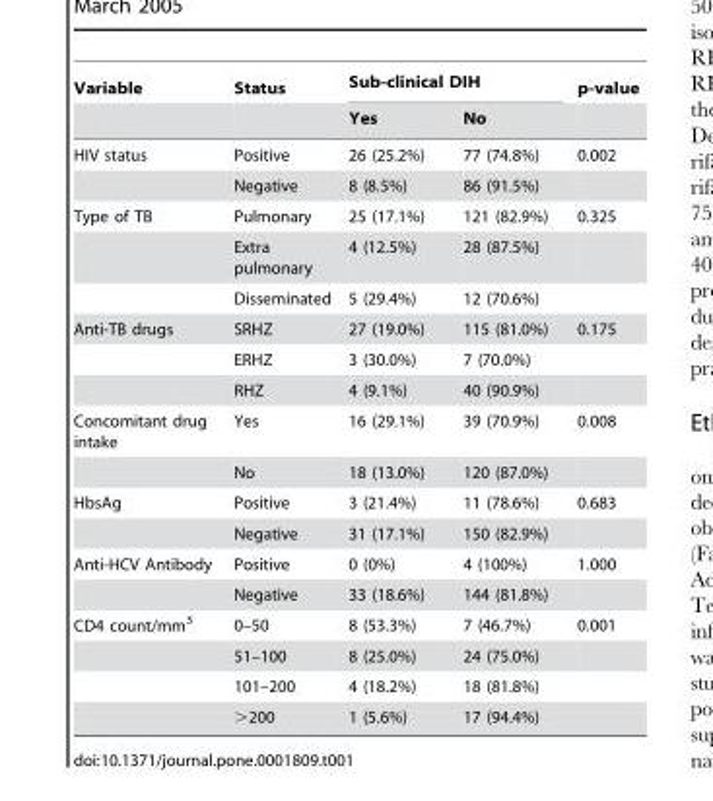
<table><thead><tr><td rowspan="2">Variable</td><td rowspan="2">Status</td><td colspan="2">Sub-clinical DIH</td><td rowspan="2">p-value</td></tr><tr><td>Yes</td><td>No</td></tr></thead><tbody><tr><td rowspan="2">HIV status</td><td>Positive</td><td>26 (25.2%)</td><td>77 (74.8%)</td><td>0.002</td></tr><tr><td>Negative</td><td>8 (8.5%)</td><td>86 (91.5%)</td><td></td></tr><tr><td rowspan="3">Type of TB</td><td>Pulmonary</td><td>25 (17.1%)</td><td>121 (82.9%)</td><td>0.325</td></tr><tr><td>Extra pulmonary</td><td>4 (12.5%)</td><td>28 (87.5%)</td><td></td></tr><tr><td>Disseminated</td><td>5 (29.4%)</td><td>12 (70.6%)</td><td></td></tr><tr><td rowspan="3">Anti-TB drugs</td><td>SRHZ</td><td>27 (19.0%)</td><td>115 (81.0%)</td><td>0.175</td></tr><tr><td>ERHZ</td><td>3 (30.0%)</td><td>7 (70.0%)</td><td></td></tr><tr><td>RHZ</td><td>4 (9.1%)</td><td>40 (90.9%)</td><td></td></tr><tr><td rowspan="2">Concomitant drug intake</td><td>Yes</td><td>16 (29.1%)</td><td>39 (70.9%)</td><td>0.008</td></tr><tr><td>No</td><td>18 (13.0%)</td><td>120 (87.0%)</td><td></td></tr><tr><td rowspan="2">HbsAg</td><td>Positive</td><td>3 (21.4%)</td><td>11 (78.6%)</td><td>0.683</td></tr><tr><td>Negative</td><td>31 (17.1%)</td><td>150 (82.9%)</td><td></td></tr><tr><td rowspan="2">Anti-HCV Antibody</td><td>Positive</td><td>0 (0%)</td><td>4 (100%)</td><td>1.000</td></tr><tr><td>Negative</td><td>33 (18.6%)</td><td>144 (81.8%)</td><td></td></tr><tr><td rowspan="4">CD4 count/mm<sup>3</sup></td><td>0–50</td><td>8 (53.3%)</td><td>7 (46.7%)</td><td>0.001</td></tr><tr><td>51–100</td><td>8 (25.0%)</td><td>24 (75.0%)</td><td></td></tr><tr><td>101–200</td><td>4 (18.2%)</td><td>18 (81.8%)</td><td></td></tr><tr><td>&gt;200</td><td>1 (5.6%)</td><td>17 (94.4%)</td><td></td></tr></tbody></table>